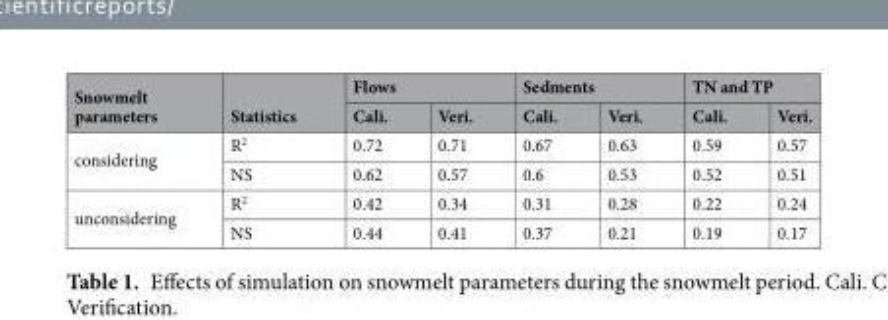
<table><thead><tr><td rowspan="2">Snowmelt parameters</td><td rowspan="2">Statistics</td><td colspan="2">Flows</td><td colspan="2">Sedments</td><td colspan="2">TN and TP</td></tr><tr><td>Cali.</td><td>Veri.</td><td>Cali.</td><td>Veri.</td><td>Cali.</td><td>Veri.</td></tr></thead><tbody><tr><td rowspan="2">considering</td><td>R<sup>2</sup></td><td>0.72</td><td>0.71</td><td>0.67</td><td>0.63</td><td>0.59</td><td>0.57</td></tr><tr><td>NS</td><td>0.62</td><td>0.57</td><td>0.6</td><td>0.53</td><td>0.52</td><td>0.51</td></tr><tr><td rowspan="2">unconsidering</td><td>R<sup>2</sup></td><td>0.42</td><td>0.34</td><td>0.31</td><td>0.28</td><td>0.22</td><td>0.24</td></tr><tr><td>NS</td><td>0.44</td><td>0.41</td><td>0.37</td><td>0.21</td><td>0.19</td><td>0.17</td></tr></tbody></table>